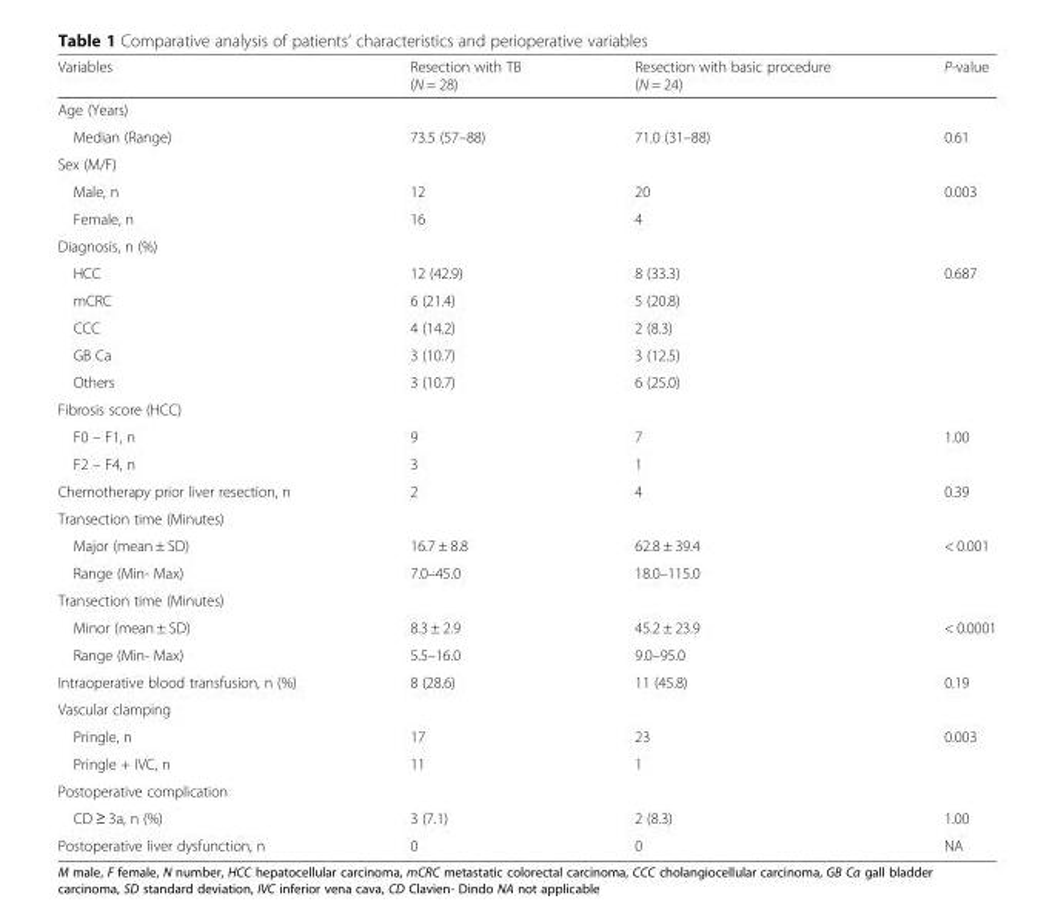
<table><thead><tr><td>Variables</td><td>Resection with TB (N = 28)</td><td>Resection with basic procedure (N = 24)</td><td>P-value</td></tr></thead><tbody><tr><td colspan="4">Age (Years)</td></tr><tr><td>Median (Range)</td><td>73.5 (57–88)</td><td>71.0 (31–88)</td><td>0.61</td></tr><tr><td colspan="4">Sex (M/F)</td></tr><tr><td>Male, n</td><td>12</td><td>20</td><td>0.003</td></tr><tr><td>Female, n</td><td>16</td><td>4</td><td></td></tr><tr><td colspan="4">Diagnosis, n (%)</td></tr><tr><td>HCC</td><td>12 (42.9)</td><td>8 (33.3)</td><td>0.687</td></tr><tr><td>mCRC</td><td>6 (21.4)</td><td>5 (20.8)</td><td></td></tr><tr><td>CCC</td><td>4 (14.2)</td><td>2 (8.3)</td><td></td></tr><tr><td>GB Ca</td><td>3 (10.7)</td><td>3 (12.5)</td><td></td></tr><tr><td>Others</td><td>3 (10.7)</td><td>6 (25.0)</td><td></td></tr><tr><td colspan="4">Fibrosis score (HCC)</td></tr><tr><td>F0 – F1, n</td><td>9</td><td>7</td><td>1.00</td></tr><tr><td>F2 – F4, n</td><td>3</td><td>1</td><td></td></tr><tr><td>Chemotherapy prior liver resection, n</td><td>2</td><td>4</td><td>0.39</td></tr><tr><td colspan="4">Transection time (Minutes)</td></tr><tr><td>Major (mean ± SD)</td><td>16.7 ± 8.8</td><td>62.8 ± 39.4</td><td>&lt; 0.001</td></tr><tr><td>Range (Min- Max)</td><td>7.0–45.0</td><td>18.0–115.0</td><td></td></tr><tr><td colspan="4">Transection time (Minutes)</td></tr><tr><td>Minor (mean ± SD)</td><td>8.3 ± 2.9</td><td>45.2 ± 23.9</td><td>&lt; 0.0001</td></tr><tr><td>Range (Min- Max)</td><td>5.5–16.0</td><td>9.0–95.0</td><td></td></tr><tr><td>Intraoperative blood transfusion, n (%)</td><td>8 (28.6)</td><td>11 (45.8)</td><td>0.19</td></tr><tr><td colspan="4">Vascular clamping</td></tr><tr><td>Pringle, n</td><td>17</td><td>23</td><td>0.003</td></tr><tr><td>Pringle + IVC, n</td><td>11</td><td>1</td><td></td></tr><tr><td colspan="4">Postoperative complication</td></tr><tr><td>CD ≥ 3a, n (%)</td><td>3 (7.1)</td><td>2 (8.3)</td><td>1.00</td></tr><tr><td>Postoperative liver dysfunction, n</td><td>0</td><td>0</td><td>NA</td></tr></tbody></table>